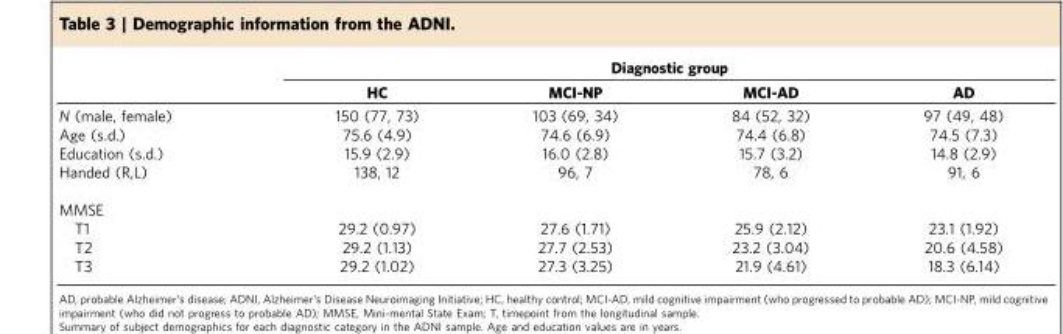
<table><thead><tr><td rowspan="2"></td><td colspan="4">Diagnostic group</td></tr><tr><td>HC</td><td>MCI-NP</td><td>MCI-AD</td><td>AD</td></tr></thead><tbody><tr><td>N (male, female)</td><td>150 (77, 73)</td><td>103 (69, 34)</td><td>84 (52, 32)</td><td>97 (49, 48)</td></tr><tr><td>Age (s.d.)</td><td>75.6 (4.9)</td><td>74.6 (6.9)</td><td>74.4 (6.8)</td><td>74.5 (7.3)</td></tr><tr><td>Education (s.d.)</td><td>15.9 (2.9)</td><td>16.0 (2.8)</td><td>15.7 (3.2)</td><td>14.8 (2.9)</td></tr><tr><td>Handed (R,L)</td><td>138, 12</td><td>96, 7</td><td>78, 6</td><td>91, 6</td></tr><tr><td colspan="5">MMSE</td></tr><tr><td>T1</td><td>29.2 (0.97)</td><td>27.6 (1.71)</td><td>25.9 (2.12)</td><td>23.1 (1.92)</td></tr><tr><td>T2</td><td>29.2 (1.13)</td><td>27.7 (2.53)</td><td>23.2 (3.04)</td><td>20.6 (4.58)</td></tr><tr><td>T3</td><td>29.2 (1.02)</td><td>27.3 (3.25)</td><td>21.9 (4.61)</td><td>18.3 (6.14)</td></tr></tbody></table>